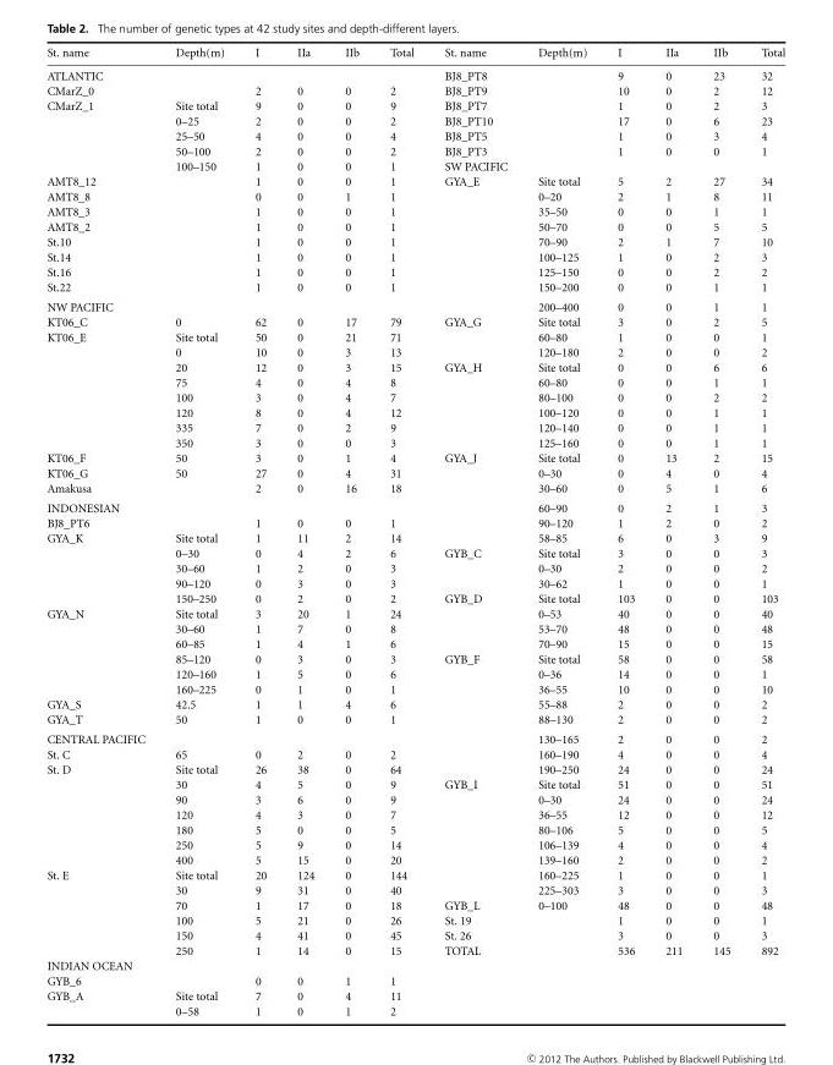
<table><thead><tr><td>St. name</td><td>Depth(m)</td><td>I</td><td>IIa</td><td>IIb</td><td>Total</td><td>St. name</td><td>Depth(m)</td><td>I</td><td>IIa</td><td>IIb</td><td>Total</td></tr></thead><tbody><tr><td>ATLANTIC</td><td></td><td></td><td></td><td></td><td></td><td>BJ8_PT8</td><td></td><td>9</td><td>0</td><td>23</td><td>32</td></tr><tr><td>CMarZ_0</td><td></td><td>2</td><td>0</td><td>0</td><td>2</td><td>BJ8_PT9</td><td></td><td>10</td><td>0</td><td>2</td><td>12</td></tr><tr><td rowspan="5">CMarZ_1</td><td>Site total</td><td>9</td><td>0</td><td>0</td><td>9</td><td>BJ8_PT7</td><td></td><td>1</td><td>0</td><td>2</td><td>3</td></tr><tr><td>0–25</td><td>2</td><td>0</td><td>0</td><td>2</td><td>BJ8_PT10</td><td></td><td>17</td><td>0</td><td>6</td><td>23</td></tr><tr><td>25–50</td><td>4</td><td>0</td><td>0</td><td>4</td><td>BJ8_PT5</td><td></td><td>1</td><td>0</td><td>3</td><td>4</td></tr><tr><td>50–100</td><td>2</td><td>0</td><td>0</td><td>2</td><td>BJ8_PT3</td><td></td><td>1</td><td>0</td><td>0</td><td>1</td></tr><tr><td>100–150</td><td>1</td><td>0</td><td>0</td><td>1</td><td>SW PACIFIC</td><td></td><td></td><td></td><td></td><td></td></tr><tr><td>AMT8_12</td><td></td><td>1</td><td>0</td><td>0</td><td>1</td><td>GYA_E</td><td>Site total</td><td>5</td><td>2</td><td>27</td><td>34</td></tr><tr><td>AMT8_8</td><td></td><td>0</td><td>0</td><td>1</td><td>1</td><td></td><td>0–20</td><td>2</td><td>1</td><td>8</td><td>11</td></tr><tr><td>AMT8_3</td><td></td><td>1</td><td>0</td><td>0</td><td>1</td><td></td><td>35–50</td><td>0</td><td>0</td><td>1</td><td>1</td></tr><tr><td>AMT8_2</td><td></td><td>1</td><td>0</td><td>0</td><td>1</td><td></td><td>50–70</td><td>0</td><td>0</td><td>5</td><td>5</td></tr><tr><td>St.10</td><td></td><td>1</td><td>0</td><td>0</td><td>1</td><td></td><td>70–90</td><td>2</td><td>1</td><td>7</td><td>10</td></tr><tr><td>St.14</td><td></td><td>1</td><td>0</td><td>0</td><td>1</td><td></td><td>100–125</td><td>1</td><td>0</td><td>2</td><td>3</td></tr><tr><td>St.16</td><td></td><td>1</td><td>0</td><td>0</td><td>1</td><td></td><td>125–150</td><td>0</td><td>0</td><td>2</td><td>2</td></tr><tr><td>St.22</td><td></td><td>1</td><td>0</td><td>0</td><td>1</td><td></td><td>150–200</td><td>0</td><td>0</td><td>1</td><td>1</td></tr><tr><td>NW PACIFIC</td><td></td><td></td><td></td><td></td><td></td><td></td><td>200–400</td><td>0</td><td>0</td><td>1</td><td>1</td></tr><tr><td>KT06_C</td><td>0</td><td>62</td><td>0</td><td>17</td><td>79</td><td>GYA_G</td><td>Site total</td><td>3</td><td>0</td><td>2</td><td>5</td></tr><tr><td rowspan="8">KT06_E</td><td>Site total</td><td>50</td><td>0</td><td>21</td><td>71</td><td></td><td>60–80</td><td>1</td><td>0</td><td>0</td><td>1</td></tr><tr><td>0</td><td>10</td><td>0</td><td>3</td><td>13</td><td></td><td>120–180</td><td>2</td><td>0</td><td>0</td><td>2</td></tr><tr><td>20</td><td>12</td><td>0</td><td>3</td><td>15</td><td>GYA_H</td><td>Site total</td><td>0</td><td>0</td><td>6</td><td>6</td></tr><tr><td>75</td><td>4</td><td>0</td><td>4</td><td>8</td><td></td><td>60–80</td><td>0</td><td>0</td><td>1</td><td>1</td></tr><tr><td>100</td><td>3</td><td>0</td><td>4</td><td>7</td><td></td><td>80–100</td><td>0</td><td>0</td><td>2</td><td>2</td></tr><tr><td>120</td><td>8</td><td>0</td><td>4</td><td>12</td><td></td><td>100–120</td><td>0</td><td>0</td><td>1</td><td>1</td></tr><tr><td>335</td><td>7</td><td>0</td><td>2</td><td>9</td><td></td><td>120–140</td><td>0</td><td>0</td><td>1</td><td>1</td></tr><tr><td>350</td><td>3</td><td>0</td><td>0</td><td>3</td><td></td><td>125–160</td><td>0</td><td>0</td><td>1</td><td>1</td></tr><tr><td>KT06_F</td><td>50</td><td>3</td><td>0</td><td>1</td><td>4</td><td>GYA_J</td><td>Site total</td><td>0</td><td>13</td><td>2</td><td>15</td></tr><tr><td>KT06_G</td><td>50</td><td>27</td><td>0</td><td>4</td><td>31</td><td></td><td>0–30</td><td>0</td><td>4</td><td>0</td><td>4</td></tr><tr><td>Amakusa</td><td></td><td>2</td><td>0</td><td>16</td><td>18</td><td></td><td>30–60</td><td>0</td><td>5</td><td>1</td><td>6</td></tr><tr><td>INDONESIAN</td><td></td><td></td><td></td><td></td><td></td><td></td><td>60–90</td><td>0</td><td>2</td><td>1</td><td>3</td></tr><tr><td>BJ8_PT6</td><td></td><td>1</td><td>0</td><td>0</td><td>1</td><td></td><td>90–120</td><td>1</td><td>2</td><td>0</td><td>2</td></tr><tr><td rowspan="5">GYA_K</td><td>Site total</td><td>1</td><td>11</td><td>2</td><td>14</td><td></td><td>58–85</td><td>6</td><td>0</td><td>3</td><td>9</td></tr><tr><td>0–30</td><td>0</td><td>4</td><td>2</td><td>6</td><td>GYB_C</td><td>Site total</td><td>3</td><td>0</td><td>0</td><td>3</td></tr><tr><td>30–60</td><td>1</td><td>2</td><td>0</td><td>3</td><td></td><td>0–30</td><td>2</td><td>0</td><td>0</td><td>2</td></tr><tr><td>90–120</td><td>0</td><td>3</td><td>0</td><td>3</td><td></td><td>30–62</td><td>1</td><td>0</td><td>0</td><td>1</td></tr><tr><td>150–250</td><td>0</td><td>2</td><td>0</td><td>2</td><td>GYB_D</td><td>Site total</td><td>103</td><td>0</td><td>0</td><td>103</td></tr><tr><td rowspan="6">GYA_N</td><td>Site total</td><td>3</td><td>20</td><td>1</td><td>24</td><td></td><td>0–53</td><td>40</td><td>0</td><td>0</td><td>40</td></tr><tr><td>30–60</td><td>1</td><td>7</td><td>0</td><td>8</td><td></td><td>53–70</td><td>48</td><td>0</td><td>0</td><td>48</td></tr><tr><td>60–85</td><td>1</td><td>4</td><td>1</td><td>6</td><td></td><td>70–90</td><td>15</td><td>0</td><td>0</td><td>15</td></tr><tr><td>85–120</td><td>0</td><td>3</td><td>0</td><td>3</td><td>GYB_F</td><td>Site total</td><td>58</td><td>0</td><td>0</td><td>58</td></tr><tr><td>120–160</td><td>1</td><td>5</td><td>0</td><td>6</td><td></td><td>0–36</td><td>14</td><td>0</td><td>0</td><td>1</td></tr><tr><td>160–225</td><td>0</td><td>1</td><td>0</td><td>1</td><td></td><td>36–55</td><td>10</td><td>0</td><td>0</td><td>10</td></tr><tr><td>GYA_S</td><td>42.5</td><td>1</td><td>1</td><td>4</td><td>6</td><td></td><td>55–88</td><td>2</td><td>0</td><td>0</td><td>2</td></tr><tr><td>GYA_T</td><td>50</td><td>1</td><td>0</td><td>0</td><td>1</td><td></td><td>88–130</td><td>2</td><td>0</td><td>0</td><td>2</td></tr><tr><td>CENTRAL PACIFIC</td><td></td><td></td><td></td><td></td><td></td><td></td><td>130–165</td><td>2</td><td>0</td><td>0</td><td>2</td></tr><tr><td>St. C</td><td>65</td><td>0</td><td>2</td><td>0</td><td>2</td><td></td><td>160–190</td><td>4</td><td>0</td><td>0</td><td>4</td></tr><tr><td rowspan="7">St. D</td><td>Site total</td><td>26</td><td>38</td><td>0</td><td>64</td><td></td><td>190–250</td><td>24</td><td>0</td><td>0</td><td>24</td></tr><tr><td>30</td><td>4</td><td>5</td><td>0</td><td>9</td><td>GYB_I</td><td>Site total</td><td>51</td><td>0</td><td>0</td><td>51</td></tr><tr><td>90</td><td>3</td><td>6</td><td>0</td><td>9</td><td></td><td>0–30</td><td>24</td><td>0</td><td>0</td><td>24</td></tr><tr><td>120</td><td>4</td><td>3</td><td>0</td><td>7</td><td></td><td>36–55</td><td>12</td><td>0</td><td>0</td><td>12</td></tr><tr><td>180</td><td>5</td><td>0</td><td>0</td><td>5</td><td></td><td>80–106</td><td>5</td><td>0</td><td>0</td><td>5</td></tr><tr><td>250</td><td>5</td><td>9</td><td>0</td><td>14</td><td></td><td>106–139</td><td>4</td><td>0</td><td>0</td><td>4</td></tr><tr><td>400</td><td>5</td><td>15</td><td>0</td><td>20</td><td></td><td>139–160</td><td>2</td><td>0</td><td>0</td><td>2</td></tr><tr><td rowspan="6">St. E</td><td>Site total</td><td>20</td><td>124</td><td>0</td><td>144</td><td></td><td>160–225</td><td>1</td><td>0</td><td>0</td><td>1</td></tr><tr><td>30</td><td>9</td><td>31</td><td>0</td><td>40</td><td></td><td>225–303</td><td>3</td><td>0</td><td>0</td><td>3</td></tr><tr><td>70</td><td>1</td><td>17</td><td>0</td><td>18</td><td>GYB_L</td><td>0–100</td><td>48</td><td>0</td><td>0</td><td>48</td></tr><tr><td>100</td><td>5</td><td>21</td><td>0</td><td>26</td><td>St. 19</td><td></td><td>1</td><td>0</td><td>0</td><td>1</td></tr><tr><td>150</td><td>4</td><td>41</td><td>0</td><td>45</td><td>St. 26</td><td></td><td>3</td><td>0</td><td>0</td><td>3</td></tr><tr><td>250</td><td>1</td><td>14</td><td>0</td><td>15</td><td>TOTAL</td><td></td><td>536</td><td>211</td><td>145</td><td>892</td></tr><tr><td colspan="12">INDIAN OCEAN</td></tr><tr><td>GYB_6</td><td></td><td>0</td><td>0</td><td>1</td><td>1</td><td></td><td></td><td></td><td></td><td></td><td></td></tr><tr><td rowspan="2">GYB_A</td><td>Site total</td><td>7</td><td>0</td><td>4</td><td>11</td><td></td><td></td><td></td><td></td><td></td><td></td></tr><tr><td>0–58</td><td>1</td><td>0</td><td>1</td><td>2</td><td></td><td></td><td></td><td></td><td></td><td></td></tr></tbody></table>